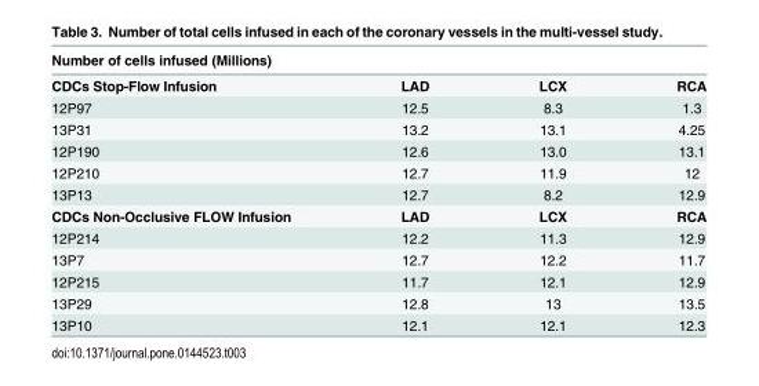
<table><thead><tr><td colspan="4">Number of cells infused (Millions)</td></tr><tr><td>CDCs Stop-Flow Infusion</td><td>LAD</td><td>LCX</td><td>RCA</td></tr></thead><tbody><tr><td>12P97</td><td>12.5</td><td>8.3</td><td>1.3</td></tr><tr><td>13P31</td><td>13.2</td><td>13.1</td><td>4.25</td></tr><tr><td>12P190</td><td>12.6</td><td>13.0</td><td>13.1</td></tr><tr><td>12P210</td><td>12.7</td><td>11.9</td><td>12</td></tr><tr><td>13P13</td><td>12.7</td><td>8.2</td><td>12.9</td></tr><tr><td>CDCs Non-Occlusive FLOW Infusion</td><td>LAD</td><td>LCX</td><td>RCA</td></tr><tr><td>12P214</td><td>12.2</td><td>11.3</td><td>12.9</td></tr><tr><td>13P7</td><td>12.7</td><td>12.2</td><td>11.7</td></tr><tr><td>12P215</td><td>11.7</td><td>12.1</td><td>12.9</td></tr><tr><td>13P29</td><td>12.8</td><td>13</td><td>13.5</td></tr><tr><td>13P10</td><td>12.1</td><td>12.1</td><td>12.3</td></tr></tbody></table>